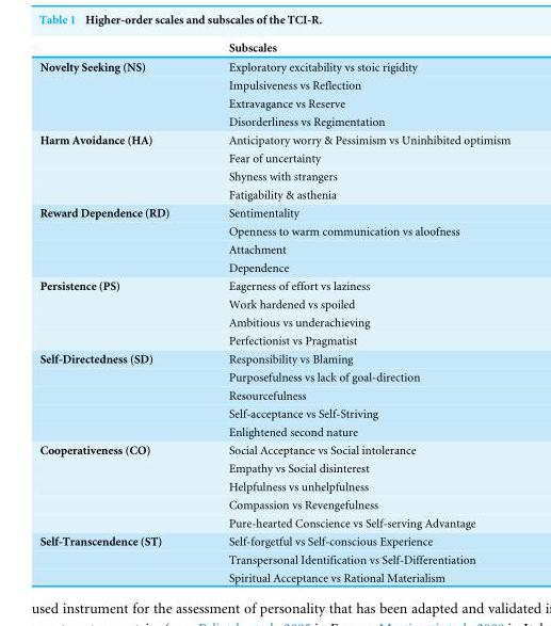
<table><thead><tr><td></td><td>Subscales</td></tr></thead><tbody><tr><td rowspan="4">Novelty Seeking (NS)</td><td>Exploratory excitability vs stoic rigidity</td></tr><tr><td>Impulsiveness vs Reflection</td></tr><tr><td>Extravagance vs Reserve</td></tr><tr><td>Disorderliness vs Regimentation</td></tr><tr><td rowspan="4">Harm Avoidance (HA)</td><td>Anticipatory worry &amp; Pessimism vs Uninhibited optimism</td></tr><tr><td>Fear of uncertainty</td></tr><tr><td>Shyness with strangers</td></tr><tr><td>Fatigability &amp; asthenia</td></tr><tr><td rowspan="4">Reward Dependence (RD)</td><td>Sentimentality</td></tr><tr><td>Openness to warm communication vs aloofness</td></tr><tr><td>Attachment</td></tr><tr><td>Dependence</td></tr><tr><td rowspan="4">Persistence (PS)</td><td>Eagerness of effort vs laziness</td></tr><tr><td>Work hardened vs spoiled</td></tr><tr><td>Ambitious vs underachieving</td></tr><tr><td>Perfectionist vs Pragmatist</td></tr><tr><td rowspan="5">Self-Directedness (SD)</td><td>Responsibility vs Blaming</td></tr><tr><td>Purposefulness vs lack of goal-direction</td></tr><tr><td>Resourcefulness</td></tr><tr><td>Self-acceptance vs Self-Striving</td></tr><tr><td>Enlightened second nature</td></tr><tr><td rowspan="5">Cooperativeness (CO)</td><td>Social Acceptance vs Social intolerance</td></tr><tr><td>Empathy vs Social disinterest</td></tr><tr><td>Helpfulness vs unhelpfulness</td></tr><tr><td>Compassion vs Revengefulness</td></tr><tr><td>Pure-hearted Conscience vs Self-serving Advantage</td></tr><tr><td rowspan="3">Self-Transcendence (ST)</td><td>Self-forgetful vs Self-conscious Experience</td></tr><tr><td>Transpersonal Identification vs Self-Differentiation</td></tr><tr><td>Spiritual Acceptance vs Rational Materialism</td></tr></tbody></table>